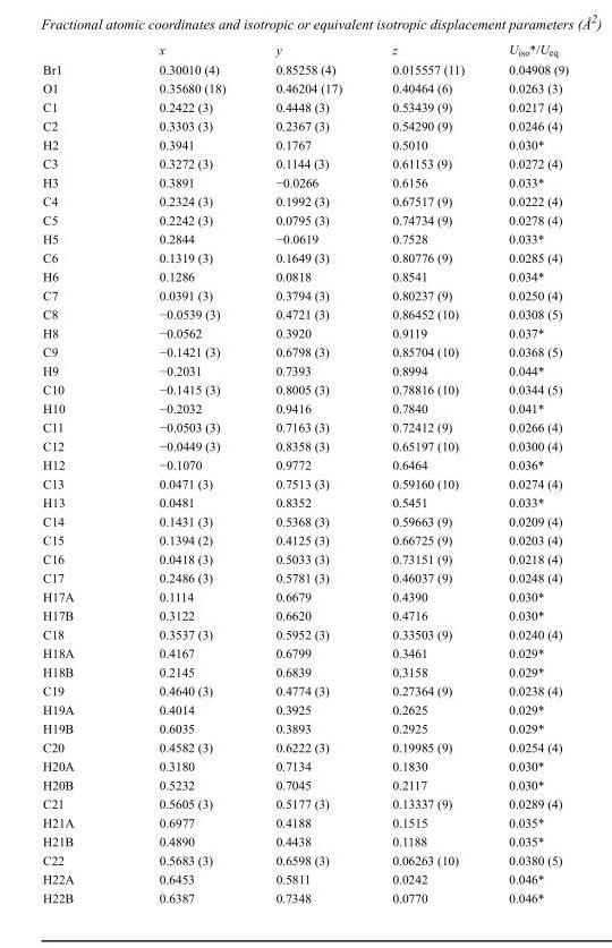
<table><thead><tr><td></td><td>x</td><td>y</td><td>z</td><td>U<sub>iso</sub>*/U<sub>eq</sub></td></tr></thead><tbody><tr><td>Br1</td><td>0.30010 (4)</td><td>0.85258 (4)</td><td>0.015557 (11)</td><td>0.04908 (9)</td></tr><tr><td>O1</td><td>0.35680 (18)</td><td>0.46204 (17)</td><td>0.40464 (6)</td><td>0.0263 (3)</td></tr><tr><td>C1</td><td>0.2422 (3)</td><td>0.4448 (3)</td><td>0.53439 (9)</td><td>0.0217 (4)</td></tr><tr><td>C2</td><td>0.3303 (3)</td><td>0.2367 (3)</td><td>0.54290 (9)</td><td>0.0246 (4)</td></tr><tr><td>H2</td><td>0.3941</td><td>0.1767</td><td>0.5010</td><td>0.030*</td></tr><tr><td>C3</td><td>0.3272 (3)</td><td>0.1144 (3)</td><td>0.61153 (9)</td><td>0.0272 (4)</td></tr><tr><td>H3</td><td>0.3891</td><td>−0.0266</td><td>0.6156</td><td>0.033*</td></tr><tr><td>C4</td><td>0.2324 (3)</td><td>0.1992 (3)</td><td>0.67517 (9)</td><td>0.0222 (4)</td></tr><tr><td>C5</td><td>0.2242 (3)</td><td>0.0795 (3)</td><td>0.74734 (9)</td><td>0.0278 (4)</td></tr><tr><td>H5</td><td>0.2844</td><td>−0.0619</td><td>0.7528</td><td>0.033*</td></tr><tr><td>C6</td><td>0.1319 (3)</td><td>0.1649 (3)</td><td>0.80776 (9)</td><td>0.0285 (4)</td></tr><tr><td>H6</td><td>0.1286</td><td>0.0818</td><td>0.8541</td><td>0.034*</td></tr><tr><td>C7</td><td>0.0391 (3)</td><td>0.3794 (3)</td><td>0.80237 (9)</td><td>0.0250 (4)</td></tr><tr><td>C8</td><td>−0.0539 (3)</td><td>0.4721 (3)</td><td>0.86452 (10)</td><td>0.0308 (5)</td></tr><tr><td>H8</td><td>−0.0562</td><td>0.3920</td><td>0.9119</td><td>0.037*</td></tr><tr><td>C9</td><td>−0.1421 (3)</td><td>0.6798 (3)</td><td>0.85704 (10)</td><td>0.0368 (5)</td></tr><tr><td>H9</td><td>−0.2031</td><td>0.7393</td><td>0.8994</td><td>0.044*</td></tr><tr><td>C10</td><td>−0.1415 (3)</td><td>0.8005 (3)</td><td>0.78816 (10)</td><td>0.0344 (5)</td></tr><tr><td>H10</td><td>−0.2032</td><td>0.9416</td><td>0.7840</td><td>0.041*</td></tr><tr><td>C11</td><td>−0.0503 (3)</td><td>0.7163 (3)</td><td>0.72412 (9)</td><td>0.0266 (4)</td></tr><tr><td>C12</td><td>−0.0449 (3)</td><td>0.8358 (3)</td><td>0.65197 (10)</td><td>0.0300 (4)</td></tr><tr><td>H12</td><td>−0.1070</td><td>0.9772</td><td>0.6464</td><td>0.036*</td></tr><tr><td>C13</td><td>0.0471 (3)</td><td>0.7513 (3)</td><td>0.59160 (10)</td><td>0.0274 (4)</td></tr><tr><td>H13</td><td>0.0481</td><td>0.8352</td><td>0.5451</td><td>0.033*</td></tr><tr><td>C14</td><td>0.1431 (3)</td><td>0.5368 (3)</td><td>0.59663 (9)</td><td>0.0209 (4)</td></tr><tr><td>C15</td><td>0.1394 (2)</td><td>0.4125 (3)</td><td>0.66725 (9)</td><td>0.0203 (4)</td></tr><tr><td>C16</td><td>0.0418 (3)</td><td>0.5033 (3)</td><td>0.73151 (9)</td><td>0.0218 (4)</td></tr><tr><td>C17</td><td>0.2486 (3)</td><td>0.5781 (3)</td><td>0.46037 (9)</td><td>0.0248 (4)</td></tr><tr><td>H17A</td><td>0.1114</td><td>0.6679</td><td>0.4390</td><td>0.030*</td></tr><tr><td>H17B</td><td>0.3122</td><td>0.6620</td><td>0.4716</td><td>0.030*</td></tr><tr><td>C18</td><td>0.3537 (3)</td><td>0.5952 (3)</td><td>0.33503 (9)</td><td>0.0240 (4)</td></tr><tr><td>H18A</td><td>0.4167</td><td>0.6799</td><td>0.3461</td><td>0.029*</td></tr><tr><td>H18B</td><td>0.2145</td><td>0.6839</td><td>0.3158</td><td>0.029*</td></tr><tr><td>C19</td><td>0.4640 (3)</td><td>0.4774 (3)</td><td>0.27364 (9)</td><td>0.0238 (4)</td></tr><tr><td>H19A</td><td>0.4014</td><td>0.3925</td><td>0.2625</td><td>0.029*</td></tr><tr><td>H19B</td><td>0.6035</td><td>0.3893</td><td>0.2925</td><td>0.029*</td></tr><tr><td>C20</td><td>0.4582 (3)</td><td>0.6222 (3)</td><td>0.19985 (9)</td><td>0.0254 (4)</td></tr><tr><td>H20A</td><td>0.3180</td><td>0.7134</td><td>0.1830</td><td>0.030*</td></tr><tr><td>H20B</td><td>0.5232</td><td>0.7045</td><td>0.2117</td><td>0.030*</td></tr><tr><td>C21</td><td>0.5605 (3)</td><td>0.5177 (3)</td><td>0.13337 (9)</td><td>0.0289 (4)</td></tr><tr><td>H21A</td><td>0.6977</td><td>0.4188</td><td>0.1515</td><td>0.035*</td></tr><tr><td>H21B</td><td>0.4890</td><td>0.4438</td><td>0.1188</td><td>0.035*</td></tr><tr><td>C22</td><td>0.5683 (3)</td><td>0.6598 (3)</td><td>0.06263 (10)</td><td>0.0380 (5)</td></tr><tr><td>H22A</td><td>0.6453</td><td>0.5811</td><td>0.0242</td><td>0.046*</td></tr><tr><td>H22B</td><td>0.6387</td><td>0.7348</td><td>0.0770</td><td>0.046*</td></tr></tbody></table>